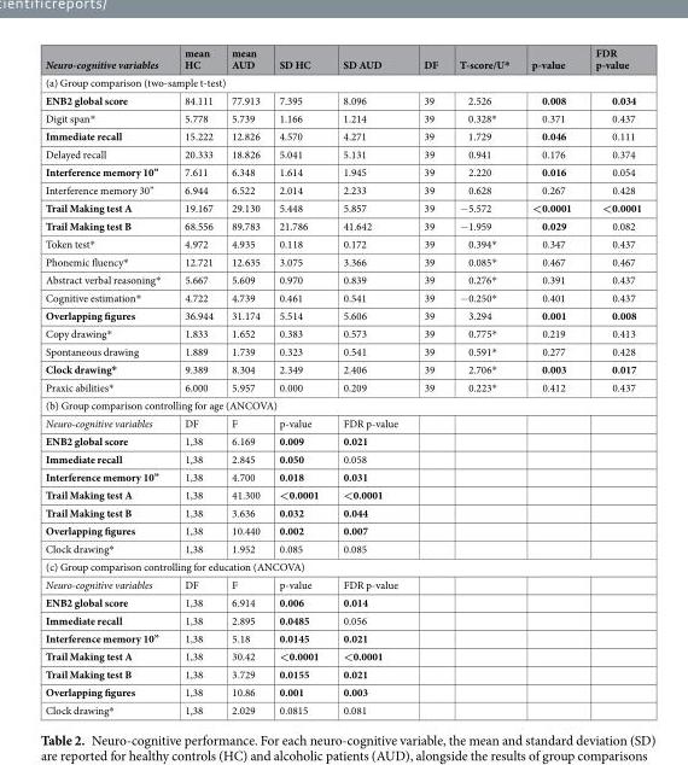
<table><thead><tr><td>Neuro-cognitive variables</td><td>mean HC</td><td>mean AUD</td><td>SD HC</td><td>SD AUD</td><td>DF</td><td>T-score/U*</td><td>p-value</td><td>FDR p-value</td></tr></thead><tbody><tr><td colspan="9">(a) Group comparison (two-sample t-test)</td></tr><tr><td>ENB2 global score</td><td>84.111</td><td>77.913</td><td>7.395</td><td>8.096</td><td>39</td><td>2.526</td><td>0.008</td><td>0.034</td></tr><tr><td>Digit span*</td><td>5.778</td><td>5.739</td><td>1.166</td><td>1.214</td><td>39</td><td>0.328*</td><td>0.371</td><td>0.437</td></tr><tr><td>Immediate recall</td><td>15.222</td><td>12.826</td><td>4.570</td><td>4.271</td><td>39</td><td>1.729</td><td>0.046</td><td>0.111</td></tr><tr><td>Delayed recall</td><td>20.333</td><td>18.826</td><td>5.041</td><td>5.131</td><td>39</td><td>0.941</td><td>0.176</td><td>0.374</td></tr><tr><td>Interference memory 10”</td><td>7.611</td><td>6.348</td><td>1.614</td><td>1.945</td><td>39</td><td>2.220</td><td>0.016</td><td>0.054</td></tr><tr><td>Interference memory 30”</td><td>6.944</td><td>6.522</td><td>2.014</td><td>2.233</td><td>39</td><td>0.628</td><td>0.267</td><td>0.428</td></tr><tr><td>Trail Making test A</td><td>19.167</td><td>29.130</td><td>5.448</td><td>5.857</td><td>39</td><td>−5.572</td><td>&lt;0.0001</td><td>&lt;0.0001</td></tr><tr><td>Trail Making test B</td><td>68.556</td><td>89.783</td><td>21.786</td><td>41.642</td><td>39</td><td>−1.959</td><td>0.029</td><td>0.082</td></tr><tr><td>Token test*</td><td>4.972</td><td>4.935</td><td>0.118</td><td>0.172</td><td>39</td><td>0.394*</td><td>0.347</td><td>0.437</td></tr><tr><td>Phonemic fluency*</td><td>12.721</td><td>12.635</td><td>3.075</td><td>3.366</td><td>39</td><td>0.085*</td><td>0.467</td><td>0.467</td></tr><tr><td>Abstract verbal reasoning*</td><td>5.667</td><td>5.609</td><td>0.970</td><td>0.839</td><td>39</td><td>0.276*</td><td>0.391</td><td>0.437</td></tr><tr><td>Cognitive estimation*</td><td>4.722</td><td>4.739</td><td>0.461</td><td>0.541</td><td>39</td><td>−0.250*</td><td>0.401</td><td>0.437</td></tr><tr><td>Overlapping figures</td><td>36.944</td><td>31.174</td><td>5.514</td><td>5.606</td><td>39</td><td>3.294</td><td>0.001</td><td>0.008</td></tr><tr><td>Copy drawing*</td><td>1.833</td><td>1.652</td><td>0.383</td><td>0.573</td><td>39</td><td>0.775*</td><td>0.219</td><td>0.413</td></tr><tr><td>Spontaneous drawing</td><td>1.889</td><td>1.739</td><td>0.323</td><td>0.541</td><td>39</td><td>0.591*</td><td>0.277</td><td>0.428</td></tr><tr><td>Clock drawing*</td><td>9.389</td><td>8.304</td><td>2.349</td><td>2.406</td><td>39</td><td>2.706*</td><td>0.003</td><td>0.017</td></tr><tr><td>Praxic abilities*</td><td>6.000</td><td>5.957</td><td>0.000</td><td>0.209</td><td>39</td><td>0.223*</td><td>0.412</td><td>0.437</td></tr><tr><td colspan="9">(b) Group comparison controlling for age (ANCOVA)</td></tr><tr><td>Neuro-cognitive variables</td><td>DF</td><td>F</td><td>p-value</td><td>FDR p-value</td><td></td><td></td><td></td><td></td></tr><tr><td>ENB2 global score</td><td>1,38</td><td>6.169</td><td>0.009</td><td>0.021</td><td></td><td></td><td></td><td></td></tr><tr><td>Immediate recall</td><td>1,38</td><td>2.845</td><td>0.050</td><td>0.058</td><td></td><td></td><td></td><td></td></tr><tr><td>Interference memory 10”</td><td>1,38</td><td>4.700</td><td>0.018</td><td>0.031</td><td></td><td></td><td></td><td></td></tr><tr><td>Trail Making test A</td><td>1,38</td><td>41.300</td><td>&lt;0.0001</td><td>&lt;0.0001</td><td></td><td></td><td></td><td></td></tr><tr><td>Trail Making test B</td><td>1,38</td><td>3.636</td><td>0.032</td><td>0.044</td><td></td><td></td><td></td><td></td></tr><tr><td>Overlapping figures</td><td>1,38</td><td>10.440</td><td>0.002</td><td>0.007</td><td></td><td></td><td></td><td></td></tr><tr><td>Clock drawing*</td><td>1,38</td><td>1.952</td><td>0.085</td><td>0.085</td><td></td><td></td><td></td><td></td></tr><tr><td colspan="9">(c) Group comparison controlling for education (ANCOVA)</td></tr><tr><td>Neuro-cognitive variables</td><td>DF</td><td>F</td><td>p-value</td><td>FDR p-value</td><td></td><td></td><td></td><td></td></tr><tr><td>ENB2 global score</td><td>1,38</td><td>6.914</td><td>0.006</td><td>0.014</td><td></td><td></td><td></td><td></td></tr><tr><td>Immediate recall</td><td>1,38</td><td>2.895</td><td>0.0485</td><td>0.056</td><td></td><td></td><td></td><td></td></tr><tr><td>Interference memory 10”</td><td>1,38</td><td>5.18</td><td>0.0145</td><td>0.021</td><td></td><td></td><td></td><td></td></tr><tr><td>Trail Making test A</td><td>1,38</td><td>30.42</td><td>&lt;0.0001</td><td>&lt;0.0001</td><td></td><td></td><td></td><td></td></tr><tr><td>Trail Making test B</td><td>1,38</td><td>3.729</td><td>0.0155</td><td>0.021</td><td></td><td></td><td></td><td></td></tr><tr><td>Overlapping figures</td><td>1,38</td><td>10.86</td><td>0.001</td><td>0.003</td><td></td><td></td><td></td><td></td></tr><tr><td>Clock drawing*</td><td>1,38</td><td>2.029</td><td>0.0815</td><td>0.081</td><td></td><td></td><td></td><td></td></tr></tbody></table>